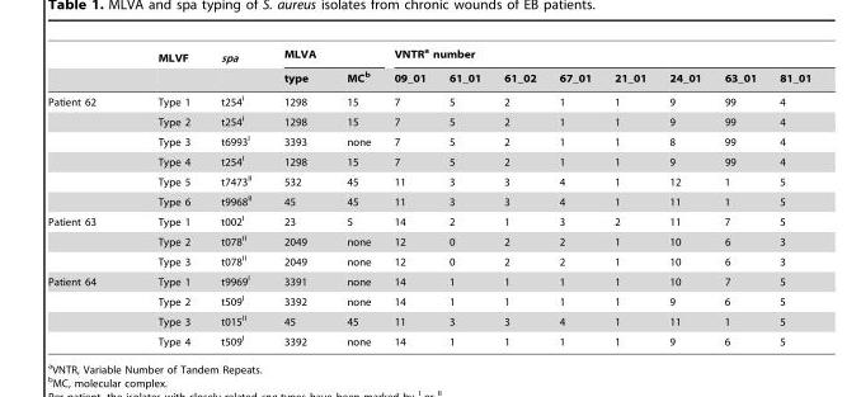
<table><thead><tr><td rowspan="2"></td><td rowspan="2">MLVF</td><td rowspan="2">spa</td><td colspan="2">MLVA</td><td colspan="8">VNTR<sup>a</sup> number</td></tr><tr><td>type</td><td>MC<sup>b</sup></td><td>09_01</td><td>61_01</td><td>61_02</td><td>67_01</td><td>21_01</td><td>24_01</td><td>63_01</td><td>81_01</td></tr></thead><tbody><tr><td rowspan="6">Patient 62</td><td>Type 1</td><td>t254<sup>I</sup></td><td>1298</td><td>15</td><td>7</td><td>5</td><td>2</td><td>1</td><td>1</td><td>9</td><td>99</td><td>4</td></tr><tr><td>Type 2</td><td>t254<sup>I</sup></td><td>1298</td><td>15</td><td>7</td><td>5</td><td>2</td><td>1</td><td>1</td><td>9</td><td>99</td><td>4</td></tr><tr><td>Type 3</td><td>t6993<sup>I</sup></td><td>3393</td><td>none</td><td>7</td><td>5</td><td>2</td><td>1</td><td>1</td><td>8</td><td>99</td><td>4</td></tr><tr><td>Type 4</td><td>t254<sup>I</sup></td><td>1298</td><td>15</td><td>7</td><td>5</td><td>2</td><td>1</td><td>1</td><td>9</td><td>99</td><td>4</td></tr><tr><td>Type 5</td><td>t7473<sup>II</sup></td><td>532</td><td>45</td><td>11</td><td>3</td><td>3</td><td>4</td><td>1</td><td>12</td><td>1</td><td>5</td></tr><tr><td>Type 6</td><td>t9968<sup>II</sup></td><td>45</td><td>45</td><td>11</td><td>3</td><td>3</td><td>4</td><td>1</td><td>11</td><td>1</td><td>5</td></tr><tr><td rowspan="3">Patient 63</td><td>Type 1</td><td>t002<sup>I</sup></td><td>23</td><td>5</td><td>14</td><td>2</td><td>1</td><td>3</td><td>2</td><td>11</td><td>7</td><td>5</td></tr><tr><td>Type 2</td><td>t078<sup>II</sup></td><td>2049</td><td>none</td><td>12</td><td>0</td><td>2</td><td>2</td><td>1</td><td>10</td><td>6</td><td>3</td></tr><tr><td>Type 3</td><td>t078<sup>II</sup></td><td>2049</td><td>none</td><td>12</td><td>0</td><td>2</td><td>2</td><td>1</td><td>10</td><td>6</td><td>3</td></tr><tr><td rowspan="4">Patient 64</td><td>Type 1</td><td>t9969<sup>I</sup></td><td>3391</td><td>none</td><td>14</td><td>1</td><td>1</td><td>1</td><td>1</td><td>10</td><td>7</td><td>5</td></tr><tr><td>Type 2</td><td>t509<sup>I</sup></td><td>3392</td><td>none</td><td>14</td><td>1</td><td>1</td><td>1</td><td>1</td><td>9</td><td>6</td><td>5</td></tr><tr><td>Type 3</td><td>t015<sup>II</sup></td><td>45</td><td>45</td><td>11</td><td>3</td><td>3</td><td>4</td><td>1</td><td>11</td><td>1</td><td>5</td></tr><tr><td>Type 4</td><td>t509<sup>I</sup></td><td>3392</td><td>none</td><td>14</td><td>1</td><td>1</td><td>1</td><td>1</td><td>9</td><td>6</td><td>5</td></tr></tbody></table>